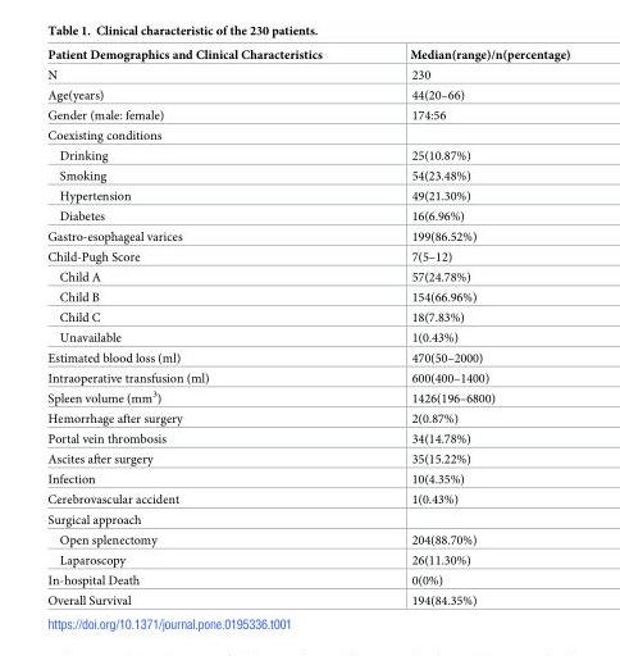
<table><thead><tr><td>Patient Demographics and Clinical Characteristics</td><td>Median(range)/n(percentage)</td></tr></thead><tbody><tr><td>N</td><td>230</td></tr><tr><td>Age(years)</td><td>44(20–66)</td></tr><tr><td>Gender (male: female)</td><td>174:56</td></tr><tr><td colspan="2">Coexisting conditions</td></tr><tr><td>Drinking</td><td>25(10.87%)</td></tr><tr><td>Smoking</td><td>54(23.48%)</td></tr><tr><td>Hypertension</td><td>49(21.30%)</td></tr><tr><td>Diabetes</td><td>16(6.96%)</td></tr><tr><td>Gastro-esophageal varices</td><td>199(86.52%)</td></tr><tr><td>Child-Pugh Score</td><td>7(5–12)</td></tr><tr><td>Child A</td><td>57(24.78%)</td></tr><tr><td>Child B</td><td>154(66.96%)</td></tr><tr><td>Child C</td><td>18(7.83%)</td></tr><tr><td>Unavailable</td><td>1(0.43%)</td></tr><tr><td>Estimated blood loss (ml)</td><td>470(50–2000)</td></tr><tr><td>Intraoperative transfusion (ml)</td><td>600(400–1400)</td></tr><tr><td>Spleen volume (mm<sup>3</sup>)</td><td>1426(196–6800)</td></tr><tr><td>Hemorrhage after surgery</td><td>2(0.87%)</td></tr><tr><td>Portal vein thrombosis</td><td>34(14.78%)</td></tr><tr><td>Ascites after surgery</td><td>35(15.22%)</td></tr><tr><td>Infection</td><td>10(4.35%)</td></tr><tr><td>Cerebrovascular accident</td><td>1(0.43%)</td></tr><tr><td colspan="2">Surgical approach</td></tr><tr><td>Open splenectomy</td><td>204(88.70%)</td></tr><tr><td>Laparoscopy</td><td>26(11.30%)</td></tr><tr><td>In-hospital Death</td><td>0(0%)</td></tr><tr><td>Overall Survival</td><td>194(84.35%)</td></tr></tbody></table>